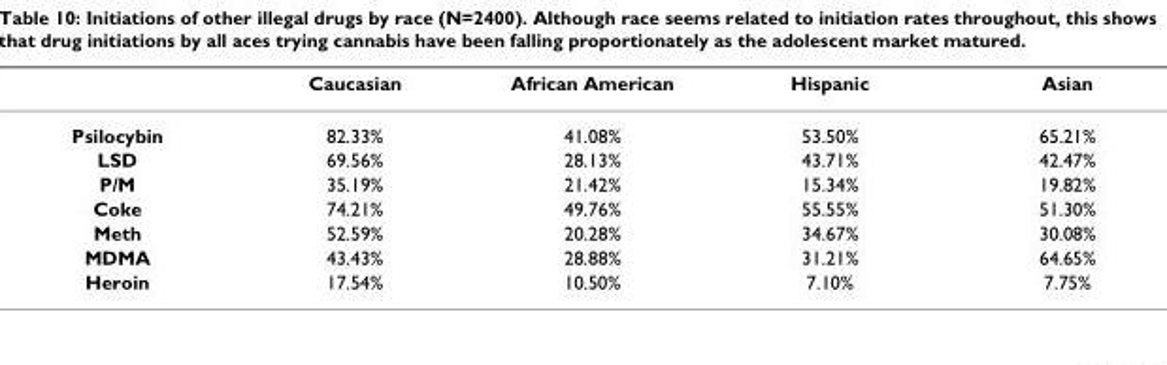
<table><thead><tr><td></td><td>Caucasian</td><td>African American</td><td>Hispanic</td><td>Asian</td></tr></thead><tbody><tr><td>Psilocybin</td><td>82.33%</td><td>41.08%</td><td>53.50%</td><td>65.21%</td></tr><tr><td>LSD</td><td>69.56%</td><td>28.13%</td><td>43.71%</td><td>42.47%</td></tr><tr><td>P/M</td><td>35.19%</td><td>21.42%</td><td>15.34%</td><td>19.82%</td></tr><tr><td>Coke</td><td>74.21%</td><td>49.76%</td><td>55.55%</td><td>51.30%</td></tr><tr><td>Meth</td><td>52.59%</td><td>20.28%</td><td>34.67%</td><td>30.08%</td></tr><tr><td>MDMA</td><td>43.43%</td><td>28.88%</td><td>31.21%</td><td>64.65%</td></tr><tr><td>Heroin</td><td>17.54%</td><td>10.50%</td><td>7.10%</td><td>7.75%</td></tr></tbody></table>